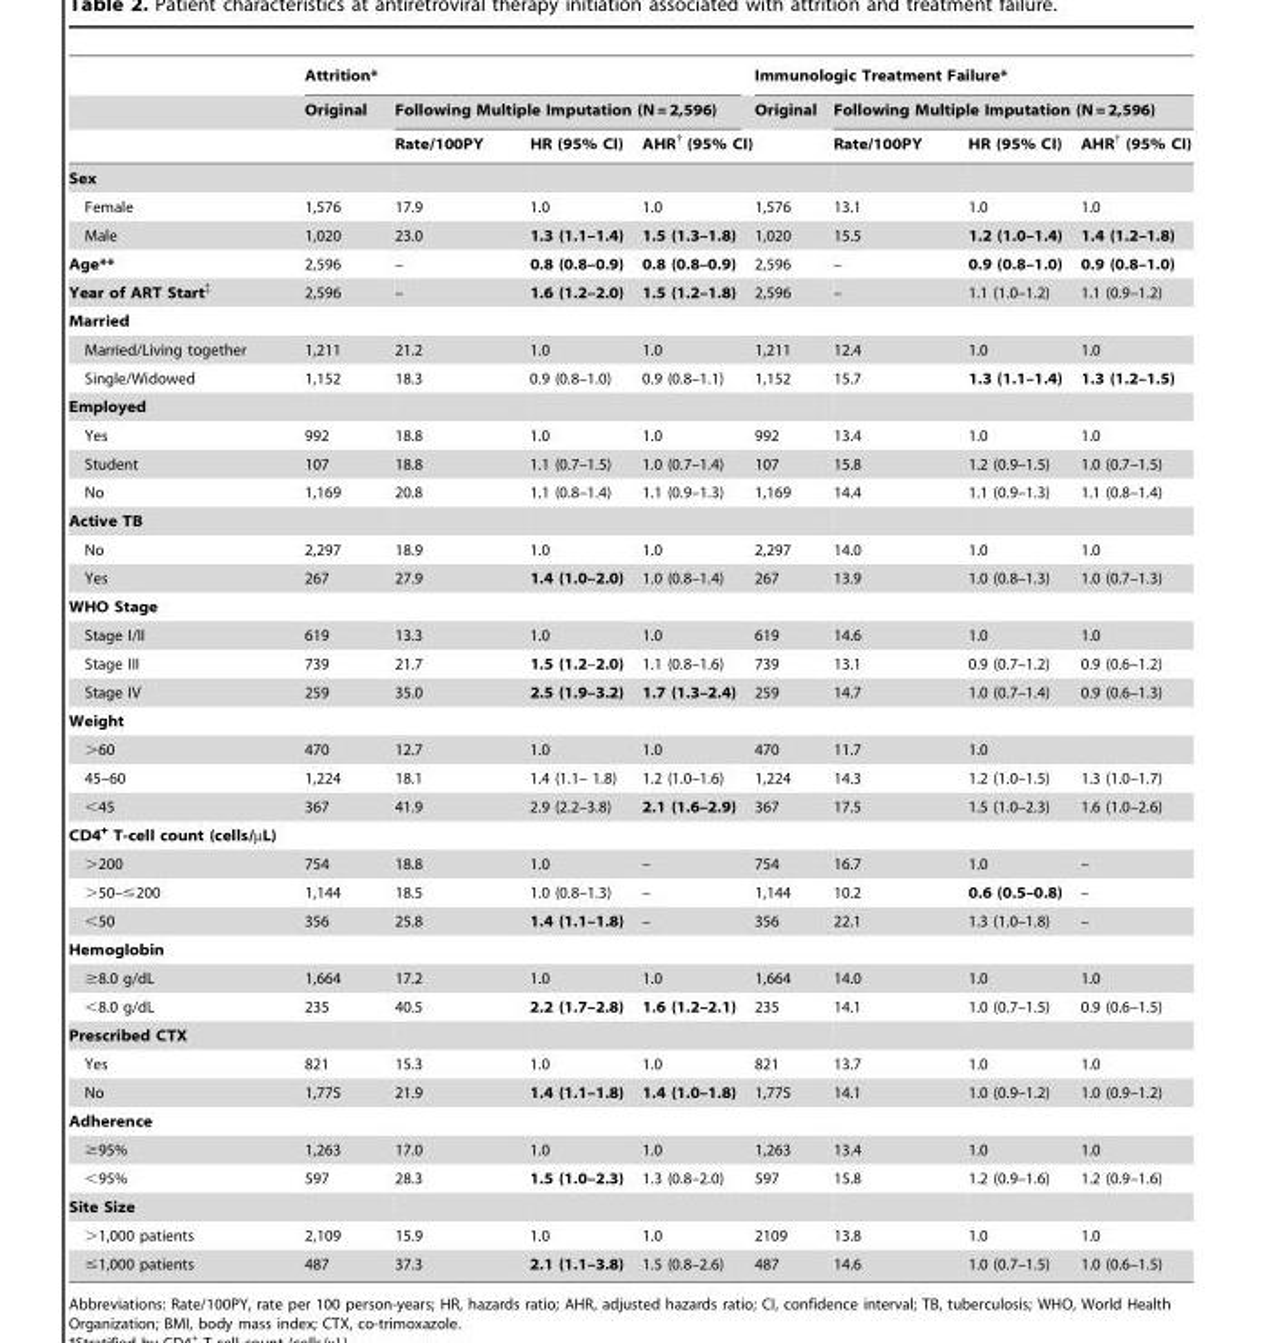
<table><thead><tr><td rowspan="3"></td><td colspan="4">Attrition*</td><td colspan="4">Immunologic Treatment Failure*</td></tr><tr><td rowspan="2">Original</td><td colspan="3">Following Multiple Imputation (N = 2,596)</td><td rowspan="2">Original</td><td colspan="3">Following Multiple Imputation (N = 2,596)</td></tr><tr><td>Rate/100PY</td><td>HR (95% CI)</td><td>AHR† (95% CI)</td><td>Rate/100PY</td><td>HR (95% CI)</td><td>AHR† (95% CI)</td></tr></thead><tbody><tr><td colspan="9">Sex</td></tr><tr><td>Female</td><td>1,576</td><td>17.9</td><td>1.0</td><td>1.0</td><td>1,576</td><td>13.1</td><td>1.0</td><td>1.0</td></tr><tr><td>Male</td><td>1,020</td><td>23.0</td><td>1.3 (1.1–1.4)</td><td>1.5 (1.3–1.8)</td><td>1,020</td><td>15.5</td><td>1.2 (1.0–1.4)</td><td>1.4 (1.2–1.8)</td></tr><tr><td>Age**</td><td>2,596</td><td>–</td><td>0.8 (0.8–0.9)</td><td>0.8 (0.8–0.9)</td><td>2,596</td><td>–</td><td>0.9 (0.8–1.0)</td><td>0.9 (0.8–1.0)</td></tr><tr><td>Year of ART Start‡</td><td>2,596</td><td>–</td><td>1.6 (1.2–2.0)</td><td>1.5 (1.2–1.8)</td><td>2,596</td><td>–</td><td>1.1 (1.0–1.2)</td><td>1.1 (0.9–1.2)</td></tr><tr><td colspan="9">Married</td></tr><tr><td>Married/Living together</td><td>1,211</td><td>21.2</td><td>1.0</td><td>1.0</td><td>1,211</td><td>12.4</td><td>1.0</td><td>1.0</td></tr><tr><td>Single/Widowed</td><td>1,152</td><td>18.3</td><td>0.9 (0.8–1.0)</td><td>0.9 (0.8–1.1)</td><td>1,152</td><td>15.7</td><td>1.3 (1.1–1.4)</td><td>1.3 (1.2–1.5)</td></tr><tr><td colspan="9">Employed</td></tr><tr><td>Yes</td><td>992</td><td>18.8</td><td>1.0</td><td>1.0</td><td>992</td><td>13.4</td><td>1.0</td><td>1.0</td></tr><tr><td>Student</td><td>107</td><td>18.8</td><td>1.1 (0.7–1.5)</td><td>1.0 (0.7–1.4)</td><td>107</td><td>15.8</td><td>1.2 (0.9–1.5)</td><td>1.0 (0.7–1.5)</td></tr><tr><td>No</td><td>1,169</td><td>20.8</td><td>1.1 (0.8–1.4)</td><td>1.1 (0.9–1.3)</td><td>1,169</td><td>14.4</td><td>1.1 (0.9–1.3)</td><td>1.1 (0.8–1.4)</td></tr><tr><td colspan="9">Active TB</td></tr><tr><td>No</td><td>2,297</td><td>18.9</td><td>1.0</td><td>1.0</td><td>2,297</td><td>14.0</td><td>1.0</td><td>1.0</td></tr><tr><td>Yes</td><td>267</td><td>27.9</td><td>1.4 (1.0–2.0)</td><td>1.0 (0.8–1.4)</td><td>267</td><td>13.9</td><td>1.0 (0.8–1.3)</td><td>1.0 (0.7–1.3)</td></tr><tr><td colspan="9">WHO Stage</td></tr><tr><td>Stage I/II</td><td>619</td><td>13.3</td><td>1.0</td><td>1.0</td><td>619</td><td>14.6</td><td>1.0</td><td>1.0</td></tr><tr><td>Stage III</td><td>739</td><td>21.7</td><td>1.5 (1.2–2.0)</td><td>1.1 (0.8–1.6)</td><td>739</td><td>13.1</td><td>0.9 (0.7–1.2)</td><td>0.9 (0.6–1.2)</td></tr><tr><td>Stage IV</td><td>259</td><td>35.0</td><td>2.5 (1.9–3.2)</td><td>1.7 (1.3–2.4)</td><td>259</td><td>14.7</td><td>1.0 (0.7–1.4)</td><td>0.9 (0.6–1.3)</td></tr><tr><td colspan="9">Weight</td></tr><tr><td>&gt;60</td><td>470</td><td>12.7</td><td>1.0</td><td>1.0</td><td>470</td><td>11.7</td><td>1.0</td><td></td></tr><tr><td>45–60</td><td>1,224</td><td>18.1</td><td>1.4 (1.1– 1.8)</td><td>1.2 (1.0–1.6)</td><td>1,224</td><td>14.3</td><td>1.2 (1.0–1.5)</td><td>1.3 (1.0–1.7)</td></tr><tr><td>&lt;45</td><td>367</td><td>41.9</td><td>2.9 (2.2–3.8)</td><td>2.1 (1.6–2.9)</td><td>367</td><td>17.5</td><td>1.5 (1.0–2.3)</td><td>1.6 (1.0–2.6)</td></tr><tr><td colspan="9">CD4<sup>+</sup> T-cell count (cells/µL)</td></tr><tr><td>&gt;200</td><td>754</td><td>18.8</td><td>1.0</td><td>–</td><td>754</td><td>16.7</td><td>1.0</td><td>–</td></tr><tr><td>&gt;50–≤200</td><td>1,144</td><td>18.5</td><td>1.0 (0.8–1.3)</td><td>–</td><td>1,144</td><td>10.2</td><td>0.6 (0.5–0.8)</td><td>–</td></tr><tr><td>&lt;50</td><td>356</td><td>25.8</td><td>1.4 (1.1–1.8)</td><td>–</td><td>356</td><td>22.1</td><td>1.3 (1.0–1.8)</td><td>–</td></tr><tr><td colspan="9">Hemoglobin</td></tr><tr><td>≥8.0 g/dL</td><td>1,664</td><td>17.2</td><td>1.0</td><td>1.0</td><td>1,664</td><td>14.0</td><td>1.0</td><td>1.0</td></tr><tr><td>&lt;8.0 g/dL</td><td>235</td><td>40.5</td><td>2.2 (1.7–2.8)</td><td>1.6 (1.2–2.1)</td><td>235</td><td>14.1</td><td>1.0 (0.7–1.5)</td><td>0.9 (0.6–1.5)</td></tr><tr><td colspan="9">Prescribed CTX</td></tr><tr><td>Yes</td><td>821</td><td>15.3</td><td>1.0</td><td>1.0</td><td>821</td><td>13.7</td><td>1.0</td><td>1.0</td></tr><tr><td>No</td><td>1,775</td><td>21.9</td><td>1.4 (1.1–1.8)</td><td>1.4 (1.0–1.8)</td><td>1,775</td><td>14.1</td><td>1.0 (0.9–1.2)</td><td>1.0 (0.9–1.2)</td></tr><tr><td colspan="9">Adherence</td></tr><tr><td>≥95%</td><td>1,263</td><td>17.0</td><td>1.0</td><td>1.0</td><td>1,263</td><td>13.4</td><td>1.0</td><td>1.0</td></tr><tr><td>&lt;95%</td><td>597</td><td>28.3</td><td>1.5 (1.0–2.3)</td><td>1.3 (0.8–2.0)</td><td>597</td><td>15.8</td><td>1.2 (0.9–1.6)</td><td>1.2 (0.9–1.6)</td></tr><tr><td colspan="9">Site Size</td></tr><tr><td>&gt;1,000 patients</td><td>2,109</td><td>15.9</td><td>1.0</td><td>1.0</td><td>2109</td><td>13.8</td><td>1.0</td><td>1.0</td></tr><tr><td>≤1,000 patients</td><td>487</td><td>37.3</td><td>2.1 (1.1–3.8)</td><td>1.5 (0.8–2.6)</td><td>487</td><td>14.6</td><td>1.0 (0.7–1.5)</td><td>1.0 (0.6–1.5)</td></tr></tbody></table>